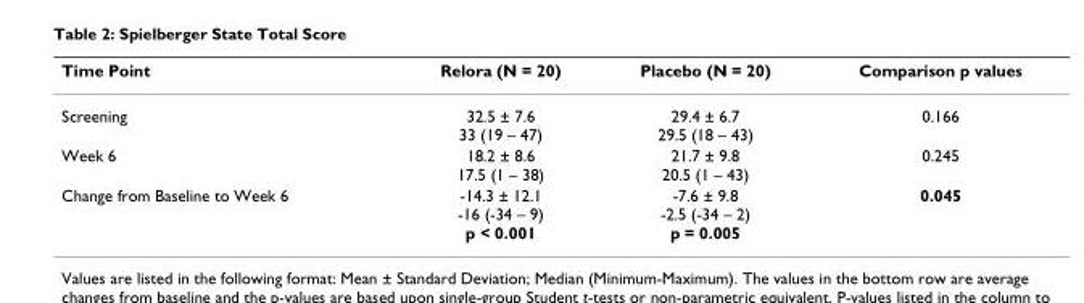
<table><thead><tr><td>Time Point</td><td>Relora (N = 20)</td><td>Placebo (N = 20)</td><td>Comparison p values</td></tr></thead><tbody><tr><td>Screening</td><td>32.5 ± 7.6 33 (19 – 47)</td><td>29.4 ± 6.7 29.5 (18 – 43)</td><td>0.166</td></tr><tr><td>Week 6</td><td>18.2 ± 8.6 17.5 (1 – 38)</td><td>21.7 ± 9.8 20.5 (1 – 43)</td><td>0.245</td></tr><tr><td>Change from Baseline to Week 6</td><td>-14.3 ± 12.1 -16 (-34 – 9) p &lt; 0.001</td><td>-7.6 ± 9.8 -2.5 (-34 – 2) p = 0.005</td><td>0.045</td></tr></tbody></table>